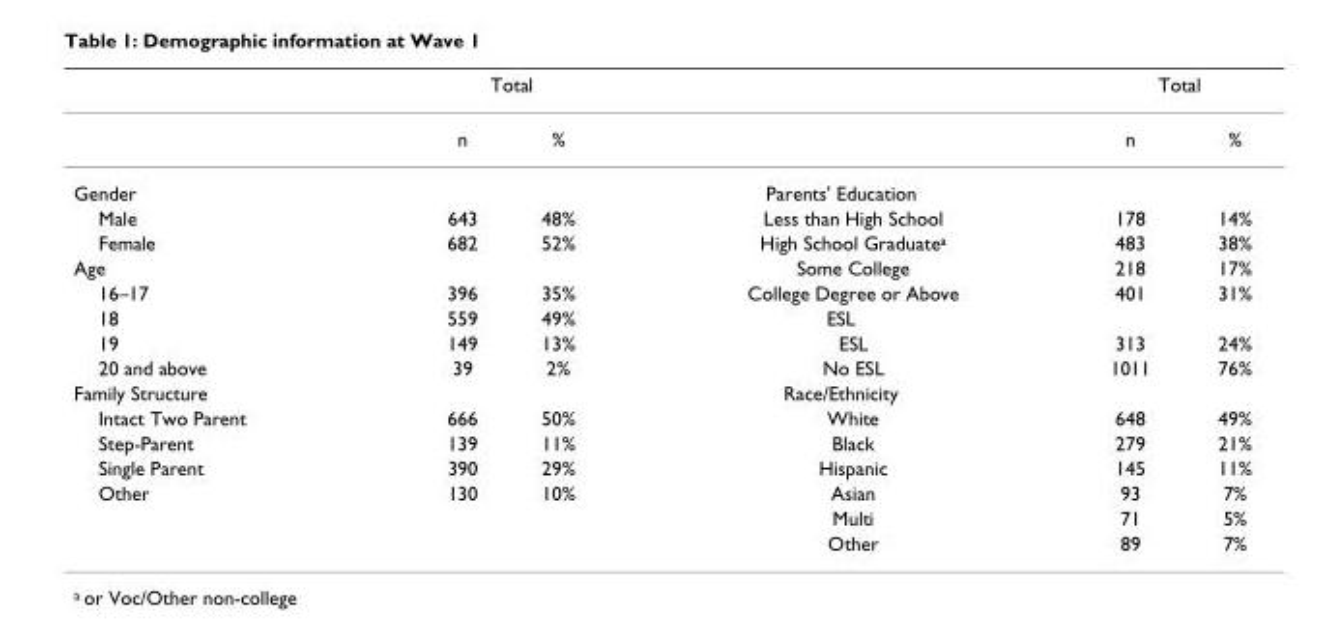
<table><thead><tr><td rowspan="2"></td><td colspan="2">Total</td><td rowspan="2"></td><td colspan="2">Total</td></tr><tr><td>n</td><td>%</td><td>n</td><td>%</td></tr></thead><tbody><tr><td>Gender</td><td></td><td></td><td>Parents&#x27; Education</td><td></td><td></td></tr><tr><td>Male</td><td>643</td><td>48%</td><td>Less than High School</td><td>178</td><td>14%</td></tr><tr><td>Female</td><td>682</td><td>52%</td><td>High School Graduate<sup>a</sup></td><td>483</td><td>38%</td></tr><tr><td>Age</td><td></td><td></td><td>Some College</td><td>218</td><td>17%</td></tr><tr><td>16–17</td><td>396</td><td>35%</td><td>College Degree or Above</td><td>401</td><td>31%</td></tr><tr><td>18</td><td>559</td><td>49%</td><td>ESL</td><td></td><td></td></tr><tr><td>19</td><td>149</td><td>13%</td><td>ESL</td><td>313</td><td>24%</td></tr><tr><td>20 and above</td><td>39</td><td>2%</td><td>No ESL</td><td>1011</td><td>76%</td></tr><tr><td>Family Structure</td><td></td><td></td><td>Race/Ethnicity</td><td></td><td></td></tr><tr><td>Intact Two Parent</td><td>666</td><td>50%</td><td>White</td><td>648</td><td>49%</td></tr><tr><td>Step-Parent</td><td>139</td><td>11%</td><td>Black</td><td>279</td><td>21%</td></tr><tr><td>Single Parent</td><td>390</td><td>29%</td><td>Hispanic</td><td>145</td><td>11%</td></tr><tr><td rowspan="3">Other</td><td>130</td><td>10%</td><td>Asian</td><td>93</td><td>7%</td></tr><tr><td></td><td></td><td>Multi</td><td>71</td><td>5%</td></tr><tr><td></td><td></td><td>Other</td><td>89</td><td>7%</td></tr></tbody></table>